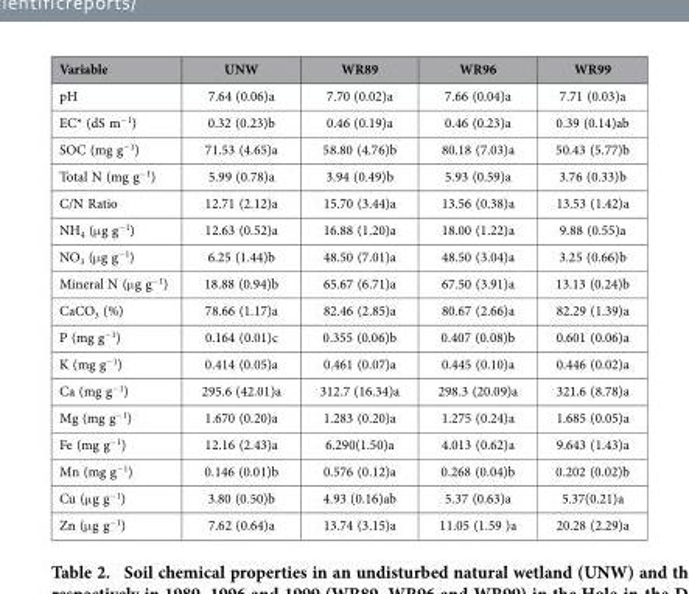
<table><thead><tr><td>Variable</td><td>UNW</td><td>WR89</td><td>WR96</td><td>WR99</td></tr></thead><tbody><tr><td>pH</td><td>7.64 (0.06)a</td><td>7.70 (0.02)a</td><td>7.66 (0.04)a</td><td>7.71 (0.03)a</td></tr><tr><td>EC* (dS m<sup>−1</sup>)</td><td>0.32 (0.23)b</td><td>0.46 (0.19)a</td><td>0.46 (0.23)a</td><td>0.39 (0.14)ab</td></tr><tr><td>SOC (mg g<sup>−1</sup>)</td><td>71.53 (4.65)a</td><td>58.80 (4.76)b</td><td>80.18 (7.03)a</td><td>50.43 (5.77)b</td></tr><tr><td>Total N (mg g<sup>−1</sup>)</td><td>5.99 (0.78)a</td><td>3.94 (0.49)b</td><td>5.93 (0.59)a</td><td>3.76 (0.33)b</td></tr><tr><td>C/N Ratio</td><td>12.71 (2.12)a</td><td>15.70 (3.44)a</td><td>13.56 (0.38)a</td><td>13.53 (1.42)a</td></tr><tr><td>NH<sub>4</sub> (μ g g<sup>−1</sup>)</td><td>12.63 (0.52)a</td><td>16.88 (1.20)a</td><td>18.00 (1.22)a</td><td>9.88 (0.55)a</td></tr><tr><td>NO<sub>3</sub> (μ g g<sup>−1</sup>)</td><td>6.25 (1.44)b</td><td>48.50 (7.01)a</td><td>48.50 (3.04)a</td><td>3.25 (0.66)b</td></tr><tr><td>Mineral N (μ g g<sup>−1</sup>)</td><td>18.88 (0.94)b</td><td>65.67 (6.71)a</td><td>67.50 (3.91)a</td><td>13.13 (0.24)b</td></tr><tr><td>CaCO<sub>3</sub> (%)</td><td>78.66 (1.17)a</td><td>82.46 (2.85)a</td><td>80.67 (2.66)a</td><td>82.29 (1.39)a</td></tr><tr><td>P (mg g<sup>−1</sup>)</td><td>0.164 (0.01)c</td><td>0.355 (0.06)b</td><td>0.407 (0.08)b</td><td>0.601 (0.06)a</td></tr><tr><td>K (mg g<sup>−1</sup>)</td><td>0.414 (0.05)a</td><td>0.461 (0.07)a</td><td>0.445 (0.10)a</td><td>0.446 (0.02)a</td></tr><tr><td>Ca (mg g<sup>−1</sup>)</td><td>295.6 (42.01)a</td><td>312.7 (16.34)a</td><td>298.3 (20.09)a</td><td>321.6 (8.78)a</td></tr><tr><td>Mg (mg g<sup>−1</sup>)</td><td>1.670 (0.20)a</td><td>1.283 (0.20)a</td><td>1.275 (0.24)a</td><td>1.685 (0.05)a</td></tr><tr><td>Fe (mg g<sup>−1</sup>)</td><td>12.16 (2.43)a</td><td>6.290(1.50)a</td><td>4.013 (0.62)a</td><td>9.643 (1.43)a</td></tr><tr><td>Mn (mg g<sup>−1</sup>)</td><td>0.146 (0.01)b</td><td>0.576 (0.12)a</td><td>0.268 (0.04)b</td><td>0.202 (0.02)b</td></tr><tr><td>Cu (μ g g<sup>−1</sup>)</td><td>3.80 (0.50)b</td><td>4.93 (0.16)ab</td><td>5.37 (0.63)a</td><td>5.37(0.21)a</td></tr><tr><td>Zn (μ g g<sup>−1</sup>)</td><td>7.62 (0.64)a</td><td>13.74 (3.15)a</td><td>11.05 (1.59 )a</td><td>20.28 (2.29)a</td></tr></tbody></table>